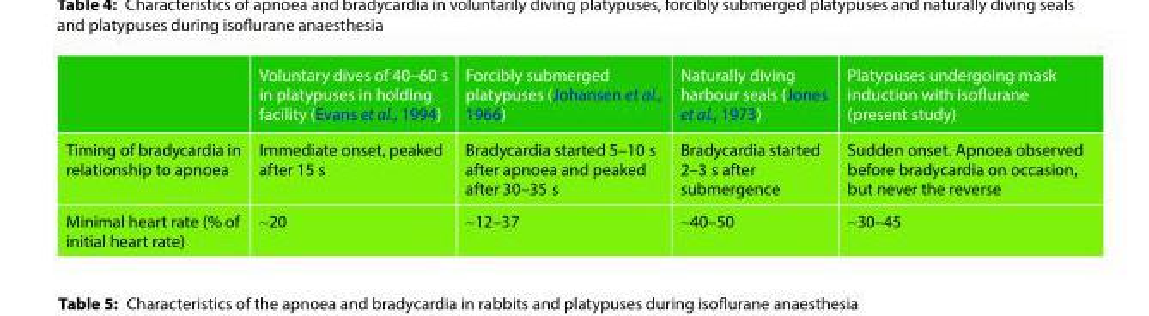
<table><thead><tr><td></td><td>Voluntary dives of 40–60 s in platypuses in holding facility (Evans et al., 1994)</td><td>Forcibly submerged platypuses (Johansen et al., 1966)</td><td>Naturally diving harbour seals (Jones et al., 1973)</td><td>Platypuses undergoing mask induction with isoflurane (present study)</td></tr></thead><tbody><tr><td>Timing of bradycardia in relationship to apnoea</td><td>Immediate onset, peaked after 15 s</td><td>Bradycardia started 5–10 s after apnoea and peaked after 30–35 s</td><td>Bradycardia started 2–3 s after submergence</td><td>Sudden onset. Apnoea observed before bradycardia on occasion, but never the reverse</td></tr><tr><td>Minimal heart rate (% of initial heart rate)</td><td>∼20</td><td>∼12–37</td><td>∼40–50</td><td>∼30–45</td></tr></tbody></table>